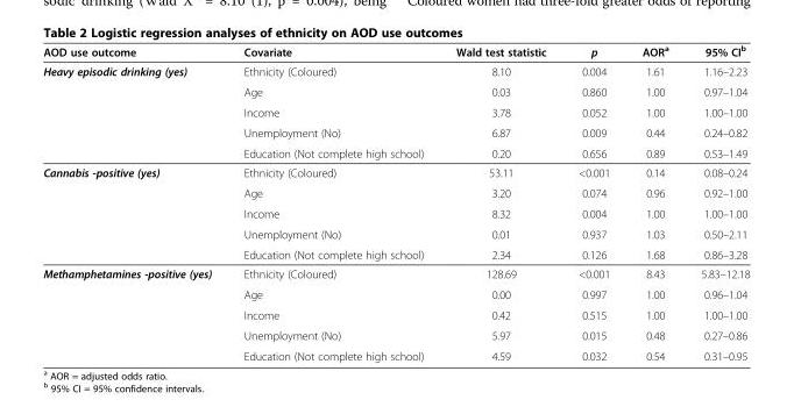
<table><thead><tr><td>AOD use outcome</td><td>Covariate</td><td>Wald test statistic</td><td>p</td><td>AOR<sup>a</sup></td><td>95% CI<sup>b</sup></td></tr></thead><tbody><tr><td rowspan="5">Heavy episodic drinking (yes)</td><td>Ethnicity (Coloured)</td><td>8.10</td><td>0.004</td><td>1.61</td><td>1.16–2.23</td></tr><tr><td>Age</td><td>0.03</td><td>0.860</td><td>1.00</td><td>0.97–1.04</td></tr><tr><td>Income</td><td>3.78</td><td>0.052</td><td>1.00</td><td>1.00–1.00</td></tr><tr><td>Unemployment (No)</td><td>6.87</td><td>0.009</td><td>0.44</td><td>0.24–0.82</td></tr><tr><td>Education (Not complete high school)</td><td>0.20</td><td>0.656</td><td>0.89</td><td>0.53–1.49</td></tr><tr><td rowspan="5">Cannabis -positive (yes)</td><td>Ethnicity (Coloured)</td><td>53.11</td><td>&lt;0.001</td><td>0.14</td><td>0.08–0.24</td></tr><tr><td>Age</td><td>3.20</td><td>0.074</td><td>0.96</td><td>0.92–1.00</td></tr><tr><td>Income</td><td>8.32</td><td>0.004</td><td>1.00</td><td>1.00–1.00</td></tr><tr><td>Unemployment (No)</td><td>0.01</td><td>0.937</td><td>1.03</td><td>0.50–2.11</td></tr><tr><td>Education (Not complete high school)</td><td>2.34</td><td>0.126</td><td>1.68</td><td>0.86–3.28</td></tr><tr><td rowspan="5">Methamphetamines -positive (yes)</td><td>Ethnicity (Coloured)</td><td>128.69</td><td>&lt;0.001</td><td>8.43</td><td>5.83–12.18</td></tr><tr><td>Age</td><td>0.00</td><td>0.997</td><td>1.00</td><td>0.96–1.04</td></tr><tr><td>Income</td><td>0.42</td><td>0.515</td><td>1.00</td><td>1.00–1.00</td></tr><tr><td>Unemployment (No)</td><td>5.97</td><td>0.015</td><td>0.48</td><td>0.27–0.86</td></tr><tr><td>Education (Not complete high school)</td><td>4.59</td><td>0.032</td><td>0.54</td><td>0.31–0.95</td></tr></tbody></table>